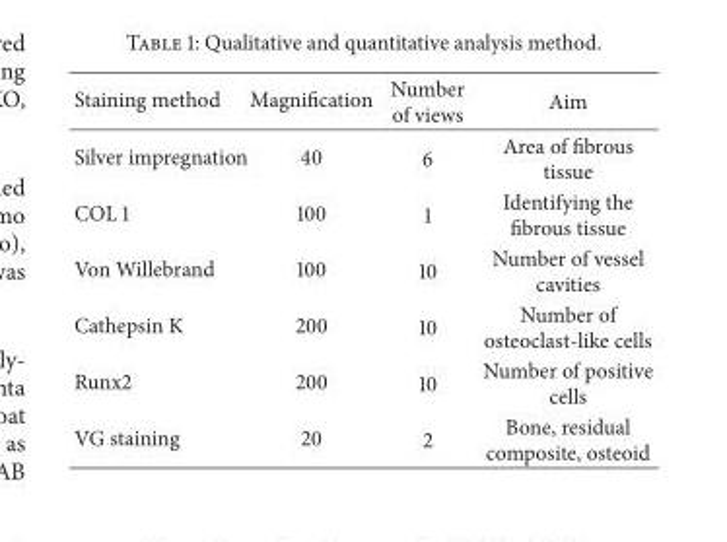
<table><thead><tr><td>Staining method</td><td>Magnification</td><td>Number of views</td><td>Aim</td></tr></thead><tbody><tr><td>Silver impregnation</td><td>40</td><td>6</td><td>Area of fibrous tissue</td></tr><tr><td>COL 1</td><td>100</td><td>1</td><td>Identifying the fibrous tissue</td></tr><tr><td>Von Willebrand</td><td>100</td><td>10</td><td>Number of vessel cavities</td></tr><tr><td>Cathepsin K</td><td>200</td><td>10</td><td>Number of osteoclast-like cells</td></tr><tr><td>Runx2</td><td>200</td><td>10</td><td>Number of positive cells</td></tr><tr><td>VG staining</td><td>20</td><td>2</td><td>Bone, residual composite, osteoid</td></tr></tbody></table>